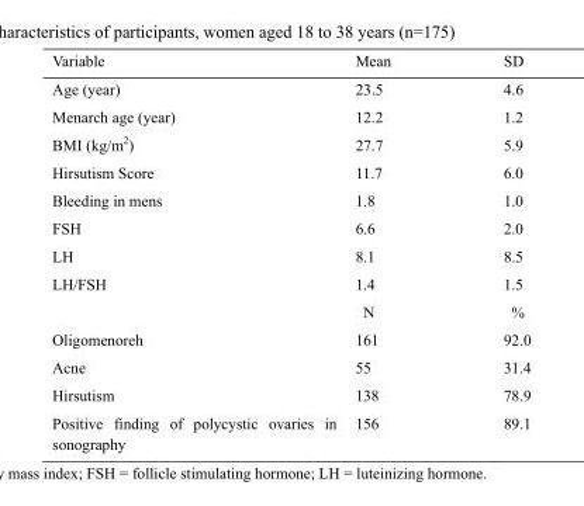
<table><thead><tr><td>Variable</td><td>Mean</td><td>SD</td></tr></thead><tbody><tr><td>Age (year)</td><td>23.5</td><td>4.6</td></tr><tr><td>Menarch age (year)</td><td>12.2</td><td>1.2</td></tr><tr><td>BMI (kg/m<sup>2</sup>)</td><td>27.7</td><td>5.9</td></tr><tr><td>Hirsutism Score</td><td>11.7</td><td>6.0</td></tr><tr><td>Bleeding in mens</td><td>1.8</td><td>1.0</td></tr><tr><td>FSH</td><td>6.6</td><td>2.0</td></tr><tr><td>LH</td><td>8.1</td><td>8.5</td></tr><tr><td rowspan="2">LH/FSH</td><td>1.4</td><td>1.5</td></tr><tr><td>N</td><td>%</td></tr><tr><td>Oligomenoreh</td><td>161</td><td>92.0</td></tr><tr><td>Acne</td><td>55</td><td>31.4</td></tr><tr><td>Hirsutism</td><td>138</td><td>78.9</td></tr><tr><td>Positive finding of polycystic ovaries in sonography</td><td>156</td><td>89.1</td></tr></tbody></table>